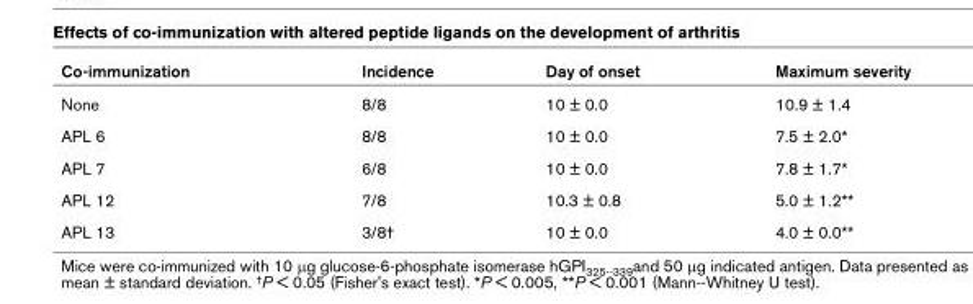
<table><thead><tr><td>Co-immunization</td><td>Incidence</td><td>Day of onset</td><td>Maximum severity</td></tr></thead><tbody><tr><td>None</td><td>8/8</td><td>10 ± 0.0</td><td>10.9 ± 1.4</td></tr><tr><td>APL 6</td><td>8/8</td><td>10 ± 0.0</td><td>7.5 ± 2.0*</td></tr><tr><td>APL 7</td><td>6/8</td><td>10 ± 0.0</td><td>7.8 ± 1.7*</td></tr><tr><td>APL 12</td><td>7/8</td><td>10.3 ± 0.8</td><td>5.0 ± 1.2**</td></tr><tr><td>APL 13</td><td>3/8†</td><td>10 ± 0.0</td><td>4.0 ± 0.0**</td></tr></tbody></table>